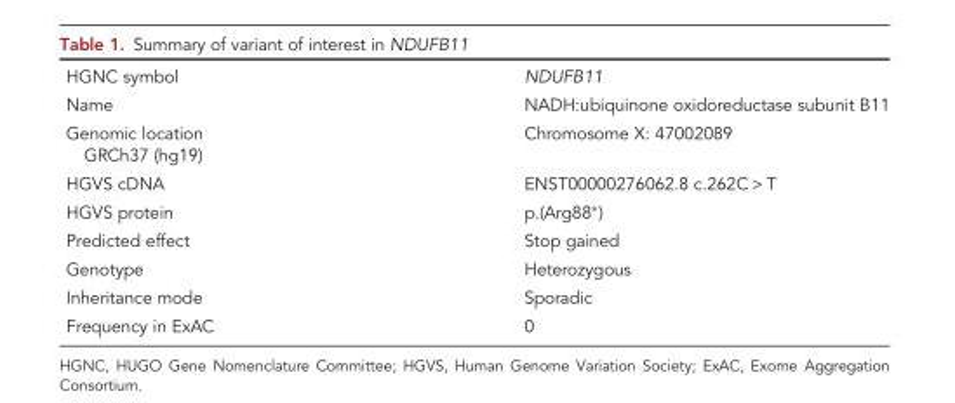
<table><tbody><tr><td>HGNC symbol</td><td>NDUFB11</td></tr><tr><td>Name</td><td>NADH:ubiquinone oxidoreductase subunit B11</td></tr><tr><td>Genomic location GRCh37 (hg19)</td><td>Chromosome X: 47002089</td></tr><tr><td>HGVS cDNA</td><td>ENST00000276062.8 c.262C &gt; T</td></tr><tr><td>HGVS protein</td><td>p.(Arg88∗)</td></tr><tr><td>Predicted effect</td><td>Stop gained</td></tr><tr><td>Genotype</td><td>Heterozygous</td></tr><tr><td>Inheritance mode</td><td>Sporadic</td></tr><tr><td>Frequency in ExAC</td><td>0</td></tr></tbody></table>